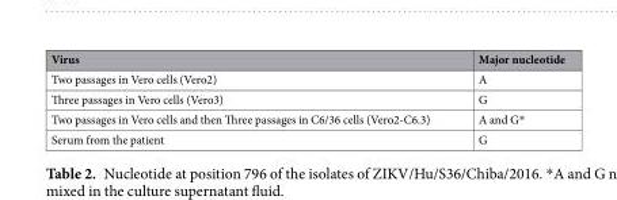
<table><thead><tr><td>Virus</td><td>Major nucleotide</td></tr></thead><tbody><tr><td>Two passages in Vero cells (Vero2)</td><td>A</td></tr><tr><td>Three passages in Vero cells (Vero3)</td><td>G</td></tr><tr><td>Two passages in Vero cells and then Three passages in C6/36 cells (Vero2-C6.3)</td><td>A and G*</td></tr><tr><td>Serum from the patient</td><td>G</td></tr></tbody></table>